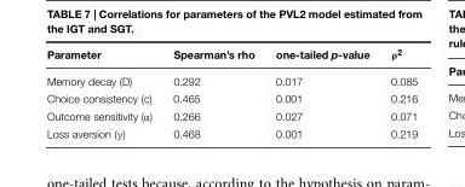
<table><thead><tr><td>Parameter</td><td>Spearman’s rho</td><td>one-tailed p-value</td><td>ρ<sup>2</sup></td></tr></thead><tbody><tr><td>Memory decay (D)</td><td>0.292</td><td>0.017</td><td>0.085</td></tr><tr><td>Choice consistency (c)</td><td>0.465</td><td>0.001</td><td>0.216</td></tr><tr><td>Outcome sensitivity (α)</td><td>0.266</td><td>0.027</td><td>0.071</td></tr><tr><td>Loss aversion (γ)</td><td>0.468</td><td>0.001</td><td>0.219</td></tr></tbody></table>